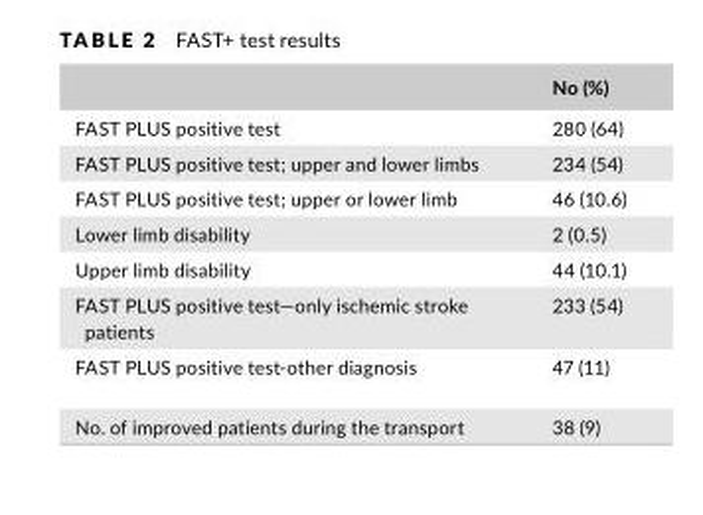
<table><thead><tr><td></td><td>No (%)</td></tr></thead><tbody><tr><td>FAST PLUS positive test</td><td>280 (64)</td></tr><tr><td>FAST PLUS positive test; upper and lower limbs</td><td>234 (54)</td></tr><tr><td>FAST PLUS positive test; upper or lower limb</td><td>46 (10.6)</td></tr><tr><td>Lower limb disability</td><td>2 (0.5)</td></tr><tr><td>Upper limb disability</td><td>44 (10.1)</td></tr><tr><td>FAST PLUS positive test—only ischemic stroke patients</td><td>233 (54)</td></tr><tr><td>FAST PLUS positive test- other diagnosis</td><td>47 (11)</td></tr><tr><td>No. of improved patients during the transport</td><td>38 (9)</td></tr></tbody></table>